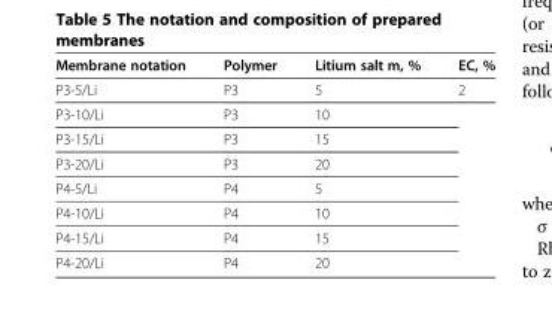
<table><thead><tr><td>Membrane notation</td><td>Polymer</td><td>Litium salt m, %</td><td>EC, %</td></tr></thead><tbody><tr><td>P3-5/Li</td><td>P3</td><td>5</td><td>2</td></tr><tr><td>P3-10/Li</td><td>P3</td><td>10</td><td></td></tr><tr><td>P3-15/Li</td><td>P3</td><td>15</td><td></td></tr><tr><td>P3-20/Li</td><td>P3</td><td>20</td><td></td></tr><tr><td>P4-5/Li</td><td>P4</td><td>5</td><td></td></tr><tr><td>P4-10/Li</td><td>P4</td><td>10</td><td></td></tr><tr><td>P4-15/Li</td><td>P4</td><td>15</td><td></td></tr><tr><td>P4-20/Li</td><td>P4</td><td>20</td><td></td></tr></tbody></table>